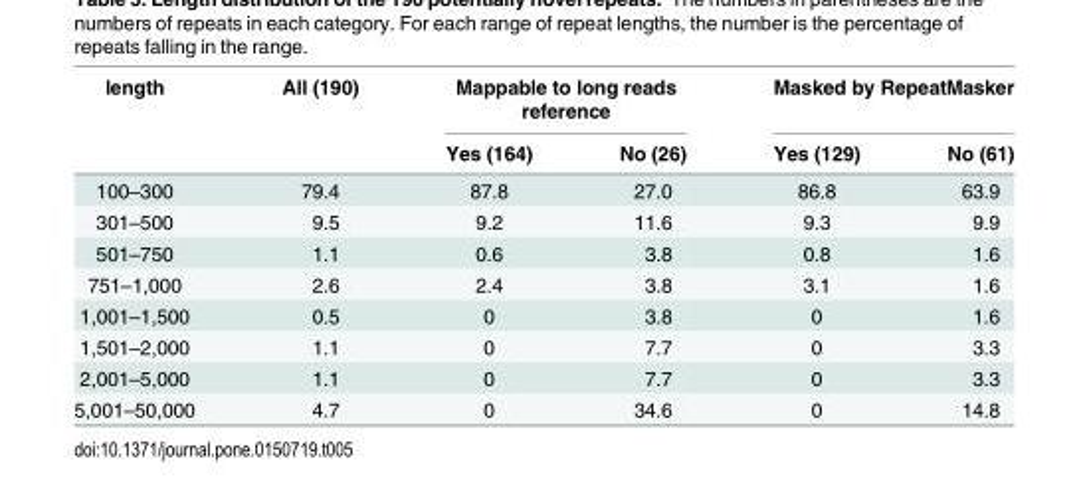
<table><thead><tr><td rowspan="2">length</td><td rowspan="2">All (190)</td><td colspan="2">Mappable to long reads reference</td><td colspan="2">Masked by RepeatMasker</td></tr><tr><td>Yes (164)</td><td>No (26)</td><td>Yes (129)</td><td>No (61)</td></tr></thead><tbody><tr><td>100–300</td><td>79.4</td><td>87.8</td><td>27.0</td><td>86.8</td><td>63.9</td></tr><tr><td>301–500</td><td>9.5</td><td>9.2</td><td>11.6</td><td>9.3</td><td>9.9</td></tr><tr><td>501–750</td><td>1.1</td><td>0.6</td><td>3.8</td><td>0.8</td><td>1.6</td></tr><tr><td>751–1,000</td><td>2.6</td><td>2.4</td><td>3.8</td><td>3.1</td><td>1.6</td></tr><tr><td>1,001–1,500</td><td>0.5</td><td>0</td><td>3.8</td><td>0</td><td>1.6</td></tr><tr><td>1,501–2,000</td><td>1.1</td><td>0</td><td>7.7</td><td>0</td><td>3.3</td></tr><tr><td>2,001–5,000</td><td>1.1</td><td>0</td><td>7.7</td><td>0</td><td>3.3</td></tr><tr><td>5,001–50,000</td><td>4.7</td><td>0</td><td>34.6</td><td>0</td><td>14.8</td></tr></tbody></table>